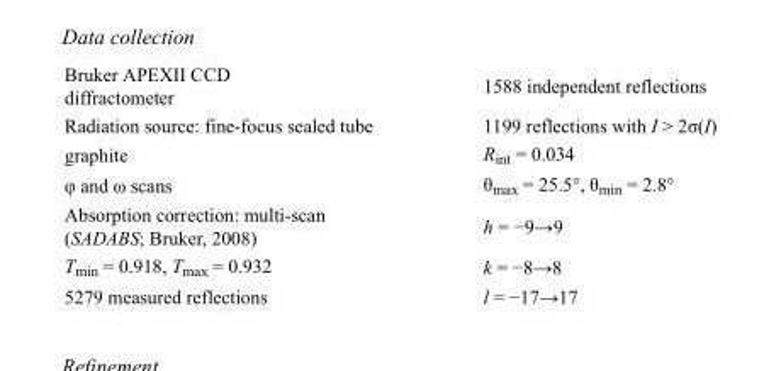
<table><tbody><tr><td>Bruker APEXII CCD diffractometer</td><td>1588 independent reflections</td></tr><tr><td>Radiation source: fine-focus sealed tube</td><td>1199 reflections with I &gt; 2σ(I)</td></tr><tr><td>graphite</td><td>R<sub>int</sub> = 0.034</td></tr><tr><td>φ and ω scans</td><td>θ<sub>max</sub> = 25.5°, θ<sub>min</sub> = 2.8°</td></tr><tr><td>Absorption correction: multi-scan (SADABS; Bruker, 2008)</td><td>h = −9→9</td></tr><tr><td>T<sub>min</sub> = 0.918, T<sub>max</sub> = 0.932</td><td>k = −8→8</td></tr><tr><td>5279 measured reflections</td><td>l = −17→17</td></tr></tbody></table>